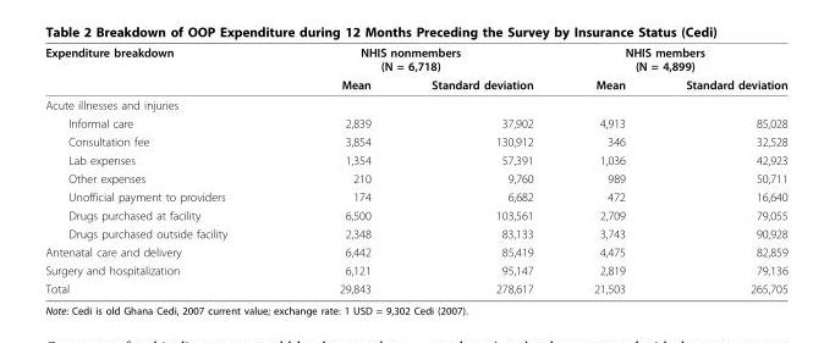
<table><thead><tr><td rowspan="2">Expenditure breakdown</td><td colspan="2">NHIS nonmembers (N = 6,718)</td><td colspan="2">NHIS members (N = 4,899)</td></tr><tr><td>Mean</td><td>Standard deviation</td><td>Mean</td><td>Standard deviation</td></tr></thead><tbody><tr><td colspan="5">Acute illnesses and injuries</td></tr><tr><td>Informal care</td><td>2,839</td><td>37,902</td><td>4,913</td><td>85,028</td></tr><tr><td>Consultation fee</td><td>3,854</td><td>130,912</td><td>346</td><td>32,528</td></tr><tr><td>Lab expenses</td><td>1,354</td><td>57,391</td><td>1,036</td><td>42,923</td></tr><tr><td>Other expenses</td><td>210</td><td>9,760</td><td>989</td><td>50,711</td></tr><tr><td>Unofficial payment to providers</td><td>174</td><td>6,682</td><td>472</td><td>16,640</td></tr><tr><td>Drugs purchased at facility</td><td>6,500</td><td>103,561</td><td>2,709</td><td>79,055</td></tr><tr><td>Drugs purchased outside facility</td><td>2,348</td><td>83,133</td><td>3,743</td><td>90,928</td></tr><tr><td>Antenatal care and delivery</td><td>6,442</td><td>85,419</td><td>4,475</td><td>82,859</td></tr><tr><td>Surgery and hospitalization</td><td>6,121</td><td>95,147</td><td>2,819</td><td>79,136</td></tr><tr><td>Total</td><td>29,843</td><td>278,617</td><td>21,503</td><td>265,705</td></tr></tbody></table>